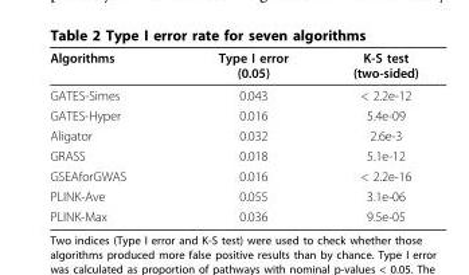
<table><thead><tr><td>Algorithms</td><td>Type I error (0.05)</td><td>K-S test (two-sided)</td></tr></thead><tbody><tr><td>GATES-Simes</td><td>0.043</td><td>&lt; 2.2e-12</td></tr><tr><td>GATES-Hyper</td><td>0.016</td><td>5.4e-09</td></tr><tr><td>Aligator</td><td>0.032</td><td>2.6e-3</td></tr><tr><td>GRASS</td><td>0.018</td><td>5.1e-12</td></tr><tr><td>GSEAforGWAS</td><td>0.016</td><td>&lt; 2.2e-16</td></tr><tr><td>PLINK-Ave</td><td>0.055</td><td>3.1e-06</td></tr><tr><td>PLINK-Max</td><td>0.036</td><td>9.5e-05</td></tr></tbody></table>